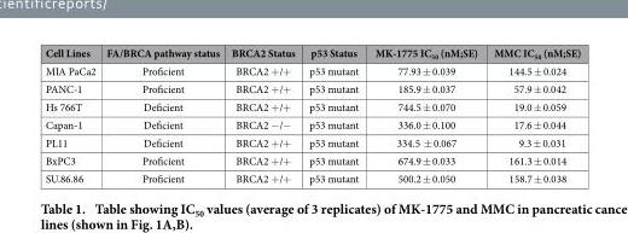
<table><thead><tr><td>Cell Lines</td><td>FA/BRCA pathway status</td><td>BRCA2 Status</td><td>p53 Status</td><td>MK-1775 IC<sub>50</sub> (nM;SE)</td><td>MMC IC<sub>50</sub> (nM;SE)</td></tr></thead><tbody><tr><td>MIA PaCa2</td><td>Proficient</td><td>BRCA2 + /+</td><td>p53 mutant</td><td>77.93 ± 0.039</td><td>144.5 ± 0.024</td></tr><tr><td>PANC-1</td><td>Proficient</td><td>BRCA2 + /+</td><td>p53 mutant</td><td>185.9 ± 0.037</td><td>57.9 ± 0.042</td></tr><tr><td>Hs 766T</td><td>Deficient</td><td>BRCA2 + /+</td><td>p53 mutant</td><td>744.5 ± 0.070</td><td>19.0 ± 0.059</td></tr><tr><td>Capan-1</td><td>Deficient</td><td>BRCA2 − /−</td><td>p53 mutant</td><td>336.0 ± 0.100</td><td>17.6 ± 0.044</td></tr><tr><td>PL11</td><td>Deficient</td><td>BRCA2 + /+</td><td>p53 mutant</td><td>334.5 ± 0.067</td><td>9.3 ± 0.031</td></tr><tr><td>BxPC3</td><td>Proficient</td><td>BRCA2 + /+</td><td>p53 mutant</td><td>674.9 ± 0.033</td><td>161.3 ± 0.014</td></tr><tr><td>SU.86.86</td><td>Proficient</td><td>BRCA2 + /+</td><td>p53 mutant</td><td>500.2 ± 0.050</td><td>158.7 ± 0.038</td></tr></tbody></table>